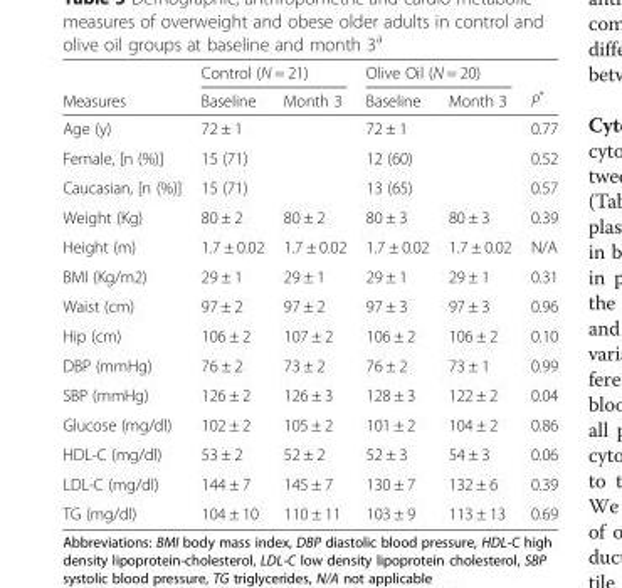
<table><thead><tr><td rowspan="2">Measures</td><td colspan="2">Control (N = 21)</td><td colspan="2">Olive Oil (N = 20)</td><td rowspan="2">P*</td></tr><tr><td>Baseline</td><td>Month 3</td><td>Baseline</td><td>Month 3</td></tr></thead><tbody><tr><td>Age (y)</td><td>72 ± 1</td><td></td><td>72 ± 1</td><td></td><td>0.77</td></tr><tr><td>Female, [n (%)]</td><td>15 (71)</td><td></td><td>12 (60)</td><td></td><td>0.52</td></tr><tr><td>Caucasian, [n (%)]</td><td>15 (71)</td><td></td><td>13 (65)</td><td></td><td>0.57</td></tr><tr><td>Weight (Kg)</td><td>80 ± 2</td><td>80 ± 2</td><td>80 ± 3</td><td>80 ± 3</td><td>0.39</td></tr><tr><td>Height (m)</td><td>1.7 ± 0.02</td><td>1.7 ± 0.02</td><td>1.7 ± 0.02</td><td>1.7 ± 0.02</td><td>N/A</td></tr><tr><td>BMI (Kg/m2)</td><td>29 ± 1</td><td>29 ± 1</td><td>29 ± 1</td><td>29 ± 1</td><td>0.31</td></tr><tr><td>Waist (cm)</td><td>97 ± 2</td><td>97 ± 2</td><td>97 ± 3</td><td>97 ± 3</td><td>0.96</td></tr><tr><td>Hip (cm)</td><td>106 ± 2</td><td>107 ± 2</td><td>106 ± 2</td><td>106 ± 2</td><td>0.10</td></tr><tr><td>DBP (mmHg)</td><td>76 ± 2</td><td>73 ± 2</td><td>76 ± 2</td><td>73 ± 1</td><td>0.99</td></tr><tr><td>SBP (mmHg)</td><td>126 ± 2</td><td>126 ± 3</td><td>128 ± 3</td><td>122 ± 2</td><td>0.04</td></tr><tr><td>Glucose (mg/dl)</td><td>102 ± 2</td><td>105 ± 2</td><td>101 ± 2</td><td>104 ± 2</td><td>0.86</td></tr><tr><td>HDL-C (mg/dl)</td><td>53 ± 2</td><td>52 ± 2</td><td>52 ± 3</td><td>54 ± 3</td><td>0.06</td></tr><tr><td>LDL-C (mg/dl)</td><td>144 ± 7</td><td>145 ± 7</td><td>130 ± 7</td><td>132 ± 6</td><td>0.39</td></tr><tr><td>TG (mg/dl)</td><td>104 ± 10</td><td>110 ± 11</td><td>103 ± 9</td><td>113 ± 13</td><td>0.69</td></tr></tbody></table>